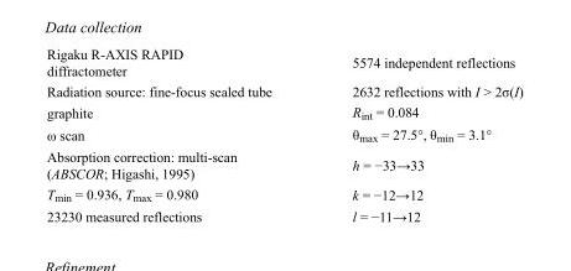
<table><tbody><tr><td>Rigaku R-AXIS RAPID diffractometer</td><td>5574 independent reflections</td></tr><tr><td>Radiation source: fine-focus sealed tube</td><td>2632 reflections with I &gt; 2σ(I)</td></tr><tr><td>graphite</td><td>R<sub>int</sub> = 0.084</td></tr><tr><td>ω scan</td><td>θ<sub>max</sub> = 27.5°, θ<sub>min</sub> = 3.1°</td></tr><tr><td>Absorption correction: multi-scan (ABSCOR; Higashi, 1995)</td><td>h = −33→33</td></tr><tr><td>T<sub>min</sub> = 0.936, T<sub>max</sub> = 0.980</td><td>k = −12→12</td></tr><tr><td>23230 measured reflections</td><td>l = −11→12</td></tr></tbody></table>